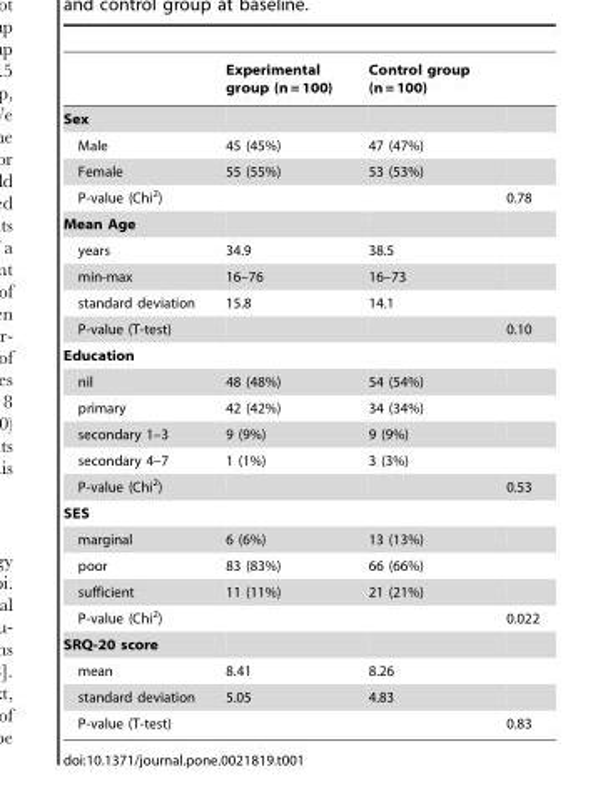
<table><thead><tr><td></td><td>Experimental group (n = 100)</td><td>Control group (n = 100)</td><td></td></tr></thead><tbody><tr><td colspan="4">Sex</td></tr><tr><td>Male</td><td>45 (45%)</td><td>47 (47%)</td><td></td></tr><tr><td>Female</td><td>55 (55%)</td><td>53 (53%)</td><td></td></tr><tr><td>P-value (Chi<sup>2</sup>)</td><td></td><td></td><td>0.78</td></tr><tr><td colspan="4">Mean Age</td></tr><tr><td>years</td><td>34.9</td><td>38.5</td><td></td></tr><tr><td>min-max</td><td>16–76</td><td>16–73</td><td></td></tr><tr><td>standard deviation</td><td>15.8</td><td>14.1</td><td></td></tr><tr><td>P-value (T-test)</td><td></td><td></td><td>0.10</td></tr><tr><td colspan="4">Education</td></tr><tr><td>nil</td><td>48 (48%)</td><td>54 (54%)</td><td></td></tr><tr><td>primary</td><td>42 (42%)</td><td>34 (34%)</td><td></td></tr><tr><td>secondary 1–3</td><td>9 (9%)</td><td>9 (9%)</td><td></td></tr><tr><td>secondary 4–7</td><td>1 (1%)</td><td>3 (3%)</td><td></td></tr><tr><td>P-value (Chi<sup>2</sup>)</td><td></td><td></td><td>0.53</td></tr><tr><td colspan="4">SES</td></tr><tr><td>marginal</td><td>6 (6%)</td><td>13 (13%)</td><td></td></tr><tr><td>poor</td><td>83 (83%)</td><td>66 (66%)</td><td></td></tr><tr><td>sufficient</td><td>11 (11%)</td><td>21 (21%)</td><td></td></tr><tr><td>P-value (Chi<sup>2</sup>)</td><td></td><td></td><td>0.022</td></tr><tr><td colspan="4">SRQ-20 score</td></tr><tr><td>mean</td><td>8.41</td><td>8.26</td><td></td></tr><tr><td>standard deviation</td><td>5.05</td><td>4.83</td><td></td></tr><tr><td>P-value (T-test)</td><td></td><td></td><td>0.83</td></tr></tbody></table>